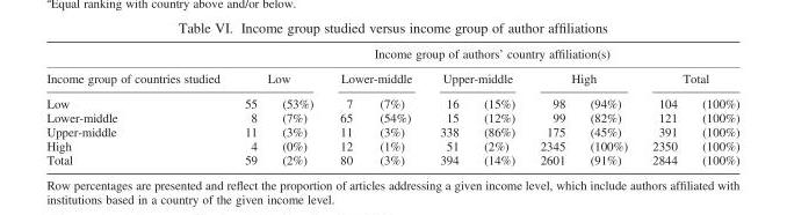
<table><thead><tr><td rowspan="3">Income group of countries studied Low</td><td colspan="10">Income group of authors’ country affiliation(s)</td></tr><tr><td colspan="2">Low</td><td colspan="2">Lower-middle</td><td colspan="2">Upper-middle</td><td colspan="2">High</td><td colspan="2">Total</td></tr><tr><td>55</td><td>(53%)</td><td>7</td><td>(7%)</td><td>16</td><td>(15%)</td><td>98</td><td>(94%)</td><td>104</td><td>(100%)</td></tr></thead><tbody><tr><td>Lower-middle</td><td>8</td><td>(7%)</td><td>65</td><td>(54%)</td><td>15</td><td>(12%)</td><td>99</td><td>(82%)</td><td>121</td><td>(100%)</td></tr><tr><td>Upper-middle</td><td>11</td><td>(3%)</td><td>11</td><td>(3%)</td><td>338</td><td>(86%)</td><td>175</td><td>(45%)</td><td>391</td><td>(100%)</td></tr><tr><td>High</td><td>4</td><td>(0%)</td><td>12</td><td>(1%)</td><td>51</td><td>(2%)</td><td>2345</td><td>(100%)</td><td>2350</td><td>(100%)</td></tr><tr><td>Total</td><td>59</td><td>(2%)</td><td>80</td><td>(3%)</td><td>394</td><td>(14%)</td><td>2601</td><td>(91%)</td><td>2844</td><td>(100%)</td></tr></tbody></table>